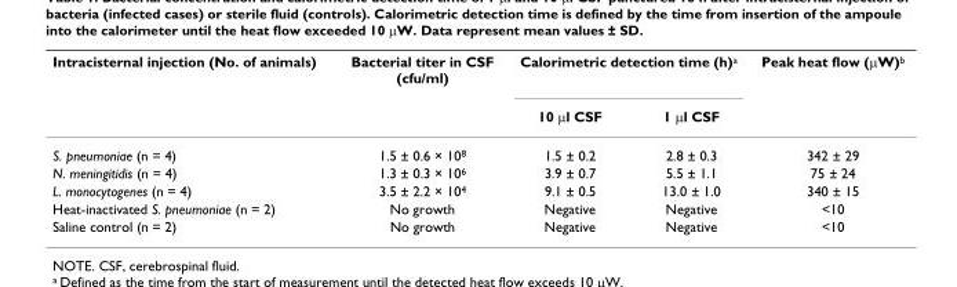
<table><thead><tr><td rowspan="2">Intracisternal injection (No. of animals)</td><td rowspan="2">Bacterial titer in CSF (cfu/ml)</td><td colspan="2">Calorimetric detection time (h)<sup>a</sup></td><td rowspan="2">Peak heat flow (µW)<sup>b</sup></td></tr><tr><td>10 µl CSF</td><td>1 µl CSF</td></tr></thead><tbody><tr><td>S. pneumoniae (n = 4)</td><td>1.5 ± 0.6 × 10<sup>8</sup></td><td>1.5 ± 0.2</td><td>2.8 ± 0.3</td><td>342 ± 29</td></tr><tr><td>N. meningitidis (n = 4)</td><td>1.3 ± 0.3 × 10<sup>6</sup></td><td>3.9 ± 0.7</td><td>5.5 ± 1.1</td><td>75 ± 24</td></tr><tr><td>L. monocytogenes (n = 4)</td><td>3.5 ± 2.2 × 10<sup>4</sup></td><td>9.1 ± 0.5</td><td>13.0 ± 1.0</td><td>340 ± 15</td></tr><tr><td>Heat-inactivated S. pneumoniae (n = 2)</td><td>No growth</td><td>Negative</td><td>Negative</td><td>&lt;10</td></tr><tr><td>Saline control (n = 2)</td><td>No growth</td><td>Negative</td><td>Negative</td><td>&lt;10</td></tr></tbody></table>